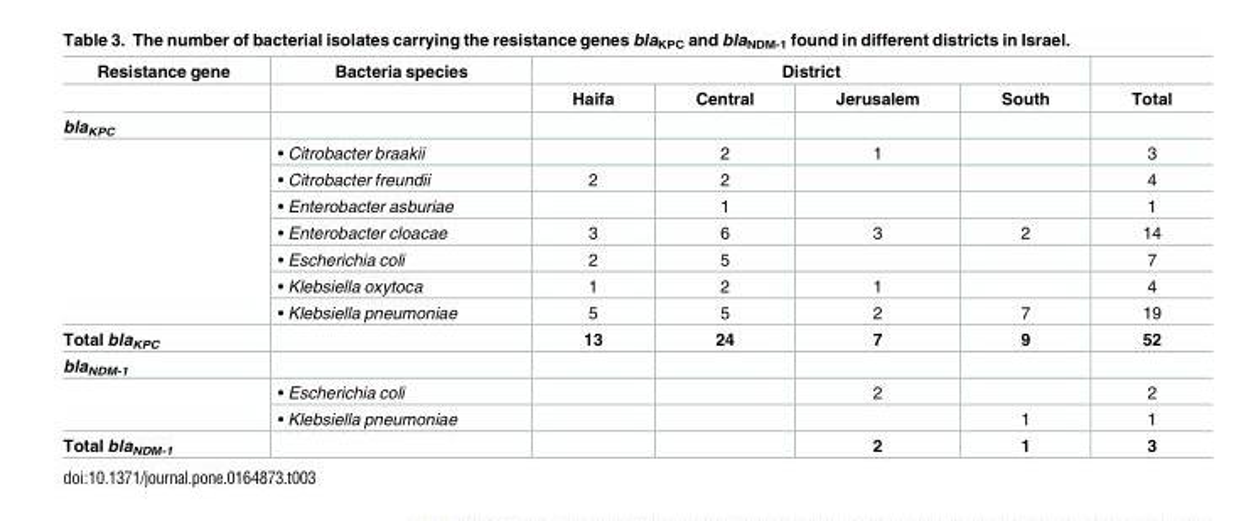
<table><thead><tr><td rowspan="2">Resistance gene</td><td rowspan="2">Bacteria species</td><td colspan="4">District</td><td rowspan="2">Total</td></tr><tr><td>Haifa</td><td>Central</td><td>Jerusalem</td><td>South</td></tr></thead><tbody><tr><td colspan="7">bla<sub>KPC</sub></td></tr><tr><td rowspan="7"></td><td>• Citrobacter braakii</td><td></td><td>2</td><td>1</td><td></td><td>3</td></tr><tr><td>• Citrobacter freundii</td><td>2</td><td>2</td><td></td><td></td><td>4</td></tr><tr><td>• Enterobacter asburiae</td><td></td><td>1</td><td></td><td></td><td>1</td></tr><tr><td>• Enterobacter cloacae</td><td>3</td><td>6</td><td>3</td><td>2</td><td>14</td></tr><tr><td>• Escherichia coli</td><td>2</td><td>5</td><td></td><td></td><td>7</td></tr><tr><td>• Klebsiella oxytoca</td><td>1</td><td>2</td><td>1</td><td></td><td>4</td></tr><tr><td>• Klebsiella pneumoniae</td><td>5</td><td>5</td><td>2</td><td>7</td><td>19</td></tr><tr><td>Total bla<sub>KPC</sub></td><td></td><td>13</td><td>24</td><td>7</td><td>9</td><td>52</td></tr><tr><td colspan="7">bla<sub>NDM-1</sub></td></tr><tr><td rowspan="2"></td><td>• Escherichia coli</td><td></td><td></td><td>2</td><td></td><td>2</td></tr><tr><td>• Klebsiella pneumoniae</td><td></td><td></td><td></td><td>1</td><td>1</td></tr><tr><td>Total bla<sub>NDM-1</sub></td><td></td><td></td><td></td><td>2</td><td>1</td><td>3</td></tr></tbody></table>